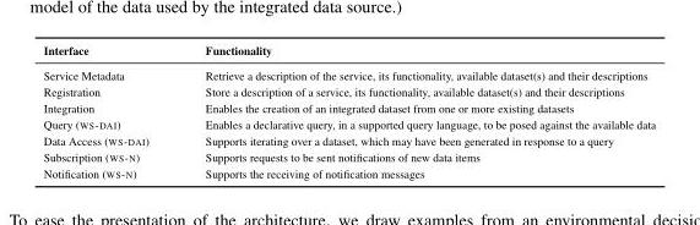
<table><thead><tr><td>Interface</td><td>Functionality</td></tr></thead><tbody><tr><td>Service Metadata</td><td>Retrieve a description of the service, its functionality, available dataset(s) and their descriptions</td></tr><tr><td>Registration</td><td>Store a description of a service, its functionality, available dataset(s) and their descriptions</td></tr><tr><td>Integration</td><td>Enables the creation of an integrated dataset from one or more existing datasets</td></tr><tr><td>Query (WS-DAI)</td><td>Enables a declarative query, in a supported query language, to be posed against the available data</td></tr><tr><td>Data Access (WS-DAI)</td><td>Supports iterating over a dataset, which may have been generated in response to a query</td></tr><tr><td>Subscription (WS-N)</td><td>Supports requests to be sent notifications of new data items</td></tr><tr><td>Notification (WS-N)</td><td>Supports the receiving of notification messages</td></tr></tbody></table>